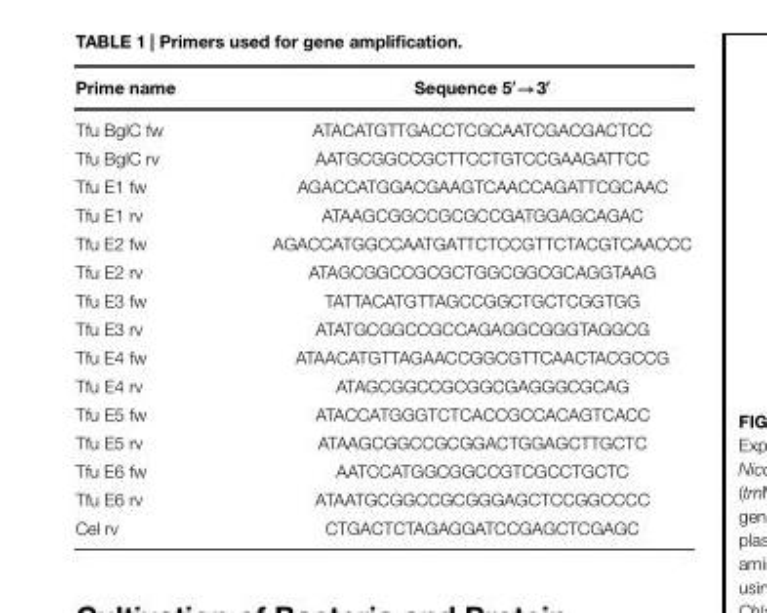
<table><thead><tr><td>Prime name</td><td>Sequence 5′→3′</td></tr></thead><tbody><tr><td>Tfu BglC fw</td><td>ATACATGTTGACCTCGCAATCGACGACTCC</td></tr><tr><td>Tfu BglC rv</td><td>AATGCGGCCGCTTCCTGTCCGAAGATTCC</td></tr><tr><td>Tfu E1 fw</td><td>AGACCATGGACGAAGTCAACCAGATTCGCAAC</td></tr><tr><td>Tfu E1 rv</td><td>ATAAGCGGCCGCGCCGATGGAGCAGAC</td></tr><tr><td>Tfu E2 fw</td><td>AGACCATGGCCAATGATTCTCCGTTCTACGTCAACCC</td></tr><tr><td>Tfu E2 rv</td><td>ATAGCGGCCGCGCTGGCGGCGCAGGTAAG</td></tr><tr><td>Tfu E3 fw</td><td>TATTACATGTTAGCCGGCTGCTCGGTGG</td></tr><tr><td>Tfu E3 rv</td><td>ATATGCGGCCGCCAGAGGCGGGTAGGCG</td></tr><tr><td>Tfu E4 fw</td><td>ATAACATGTTAGAACCGGCGTTCAACTACGCCG</td></tr><tr><td>Tfu E4 rv</td><td>ATAGCGGCCGCGGCGAGGGCGCAG</td></tr><tr><td>Tfu E5 fw</td><td>ATACCATGGGTCTCACCGCCACAGTCACC</td></tr><tr><td>Tfu E5 rv</td><td>ATAAGCGGCCGCGGACTGGAGCTTGCTC</td></tr><tr><td>Tfu E6 fw</td><td>AATCCATGGCGGCCGTCGCCTGCTC</td></tr><tr><td>Tfu E6 rv</td><td>ATAATGCGGCCGCGGGAGCTCCGGCCCC</td></tr><tr><td>Cel rv</td><td>CTGACTCTAGAGGATCCGAGCTCGAGC</td></tr></tbody></table>